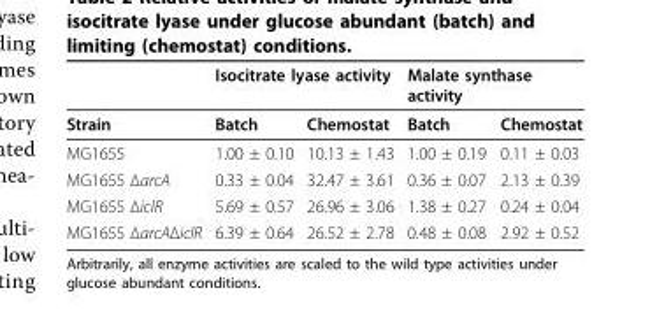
<table><thead><tr><td rowspan="2">Strain</td><td colspan="2">Isocitrate lyase activity</td><td colspan="2">Malate synthase activity</td></tr><tr><td>Batch</td><td>Chemostat</td><td>Batch</td><td>Chemostat</td></tr></thead><tbody><tr><td>MG1655</td><td>1.00 ± 0.10</td><td>10.13 ± 1.43</td><td>1.00 ± 0.19</td><td>0.11 ± 0.03</td></tr><tr><td>MG1655 ΔarcA</td><td>0.33 ± 0.04</td><td>32.47 ± 3.61</td><td>0.36 ± 0.07</td><td>2.13 ± 0.39</td></tr><tr><td>MG1655 ΔiclR</td><td>5.69 ± 0.57</td><td>26.96 ± 3.06</td><td>1.38 ± 0.27</td><td>0.24 ± 0.04</td></tr><tr><td>MG1655 ΔarcAΔiclR</td><td>6.39 ± 0.64</td><td>26.52 ± 2.78</td><td>0.48 ± 0.08</td><td>2.92 ± 0.52</td></tr></tbody></table>